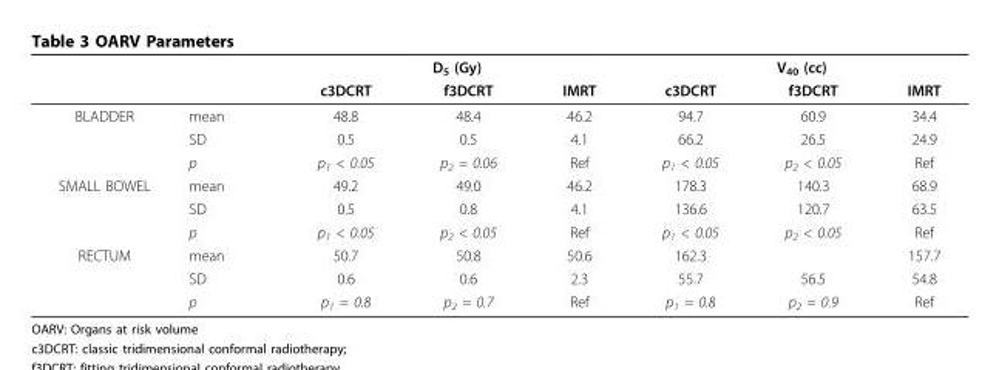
<table><thead><tr><td rowspan="2"></td><td rowspan="2"></td><td colspan="3">D<sub>5</sub> (Gy)</td><td colspan="3">V<sub>40</sub> (cc)</td></tr><tr><td>c3DCRT</td><td>f3DCRT</td><td>IMRT</td><td>c3DCRT</td><td>f3DCRT</td><td>IMRT</td></tr></thead><tbody><tr><td rowspan="3">BLADDER</td><td>mean</td><td>48.8</td><td>48.4</td><td>46.2</td><td>94.7</td><td>60.9</td><td>34.4</td></tr><tr><td>SD</td><td>0.5</td><td>0.5</td><td>4.1</td><td>66.2</td><td>26.5</td><td>24.9</td></tr><tr><td>p</td><td>p<sub>1</sub> &lt; 0.05</td><td>p<sub>2</sub> = 0.06</td><td>Ref</td><td>p<sub>1</sub> &lt; 0.05</td><td>p<sub>2</sub> &lt; 0.05</td><td>Ref</td></tr><tr><td rowspan="3">SMALL BOWEL</td><td>mean</td><td>49.2</td><td>49.0</td><td>46.2</td><td>178.3</td><td>140.3</td><td>68.9</td></tr><tr><td>SD</td><td>0.5</td><td>0.8</td><td>4.1</td><td>136.6</td><td>120.7</td><td>63.5</td></tr><tr><td>p</td><td>p<sub>1</sub> &lt; 0.05</td><td>p<sub>2</sub> &lt; 0.05</td><td>Ref</td><td>p<sub>1</sub> &lt; 0.05</td><td>p<sub>2</sub> &lt; 0.05</td><td>Ref</td></tr><tr><td rowspan="3">RECTUM</td><td>mean</td><td>50.7</td><td>50.8</td><td>50.6</td><td>162.3</td><td></td><td>157.7</td></tr><tr><td>SD</td><td>0.6</td><td>0.6</td><td>2.3</td><td>55.7</td><td>56.5</td><td>54.8</td></tr><tr><td>p</td><td>p<sub>1</sub> = 0.8</td><td>p<sub>2</sub> = 0.7</td><td>Ref</td><td>p<sub>1</sub> = 0.8</td><td>p<sub>2</sub> = 0.9</td><td>Ref</td></tr></tbody></table>